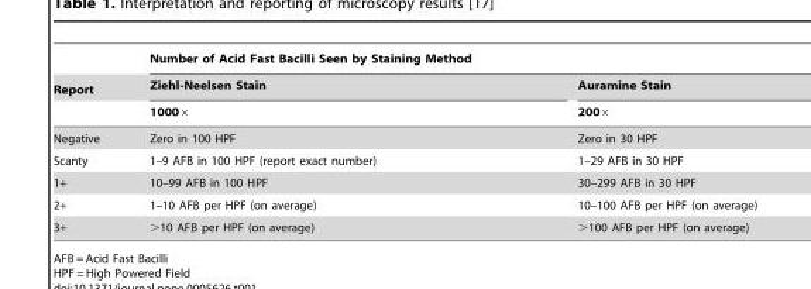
<table><thead><tr><td rowspan="3">Report</td><td colspan="2">Number of Acid Fast Bacilli Seen by Staining Method</td></tr><tr><td rowspan="2">Ziehl-Neelsen Stain 1000×</td><td rowspan="2">Auramine Stain 200×</td></tr><tr></tr></thead><tbody><tr><td>Negative</td><td>Zero in 100 HPF</td><td>Zero in 30 HPF</td></tr><tr><td>Scanty</td><td>1–9 AFB in 100 HPF (report exact number)</td><td>1–29 AFB in 30 HPF</td></tr><tr><td>1+</td><td>10–99 AFB in 100 HPF</td><td>30–299 AFB in 30 HPF</td></tr><tr><td>2+</td><td>1–10 AFB per HPF (on average)</td><td>10–100 AFB per HPF (on average)</td></tr><tr><td>3+</td><td>&gt;10 AFB per HPF (on average)</td><td>&gt;100 AFB per HPF (on average)</td></tr></tbody></table>